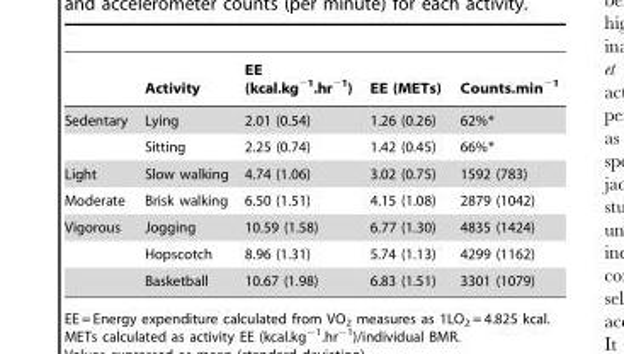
<table><thead><tr><td></td><td>Activity</td><td>EE (kcal.kg<sup>−1</sup>.hr<sup>−1</sup>)</td><td>EE (METs)</td><td>Counts.min<sup>−1</sup></td></tr></thead><tbody><tr><td rowspan="2">Sedentary</td><td>Lying</td><td>2.01 (0.54)</td><td>1.26 (0.26)</td><td>62%*</td></tr><tr><td>Sitting</td><td>2.25 (0.74)</td><td>1.42 (0.45)</td><td>66%*</td></tr><tr><td>Light</td><td>Slow walking</td><td>4.74 (1.06)</td><td>3.02 (0.75)</td><td>1592 (783)</td></tr><tr><td>Moderate</td><td>Brisk walking</td><td>6.50 (1.51)</td><td>4.15 (1.08)</td><td>2879 (1042)</td></tr><tr><td rowspan="3">Vigorous</td><td>Jogging</td><td>10.59 (1.58)</td><td>6.77 (1.30)</td><td>4835 (1424)</td></tr><tr><td>Hopscotch</td><td>8.96 (1.31)</td><td>5.74 (1.13)</td><td>4299 (1162)</td></tr><tr><td>Basketball</td><td>10.67 (1.98)</td><td>6.83 (1.51)</td><td>3301 (1079)</td></tr></tbody></table>